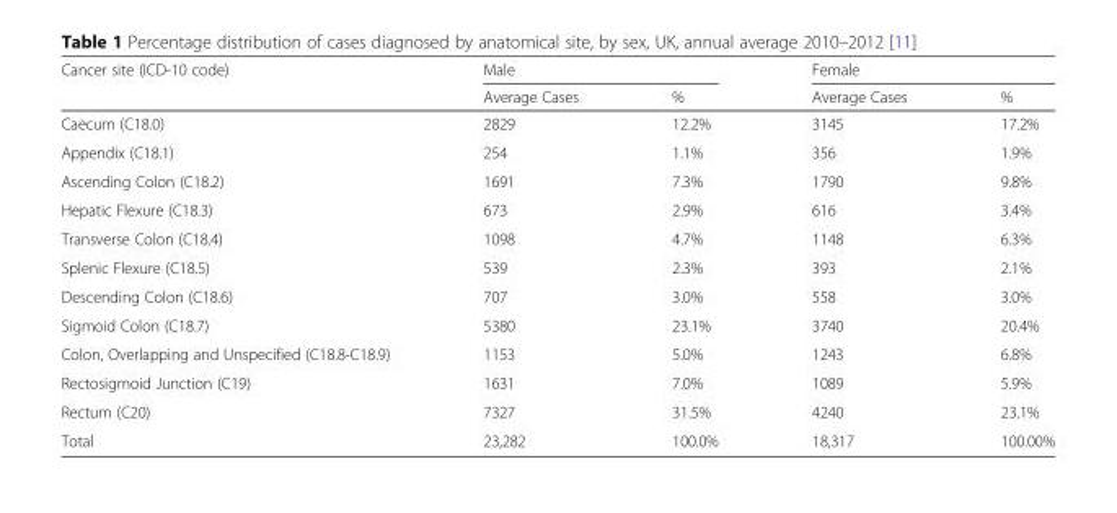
<table><thead><tr><td rowspan="2">Cancer site (ICD-10 code)</td><td colspan="2">Male</td><td colspan="2">Female</td></tr><tr><td>Average Cases</td><td>%</td><td>Average Cases</td><td>%</td></tr></thead><tbody><tr><td>Caecum (C18.0)</td><td>2829</td><td>12.2%</td><td>3145</td><td>17.2%</td></tr><tr><td>Appendix (C18.1)</td><td>254</td><td>1.1%</td><td>356</td><td>1.9%</td></tr><tr><td>Ascending Colon (C18.2)</td><td>1691</td><td>7.3%</td><td>1790</td><td>9.8%</td></tr><tr><td>Hepatic Flexure (C18.3)</td><td>673</td><td>2.9%</td><td>616</td><td>3.4%</td></tr><tr><td>Transverse Colon (C18.4)</td><td>1098</td><td>4.7%</td><td>1148</td><td>6.3%</td></tr><tr><td>Splenic Flexure (C18.5)</td><td>539</td><td>2.3%</td><td>393</td><td>2.1%</td></tr><tr><td>Descending Colon (C18.6)</td><td>707</td><td>3.0%</td><td>558</td><td>3.0%</td></tr><tr><td>Sigmoid Colon (C18.7)</td><td>5380</td><td>23.1%</td><td>3740</td><td>20.4%</td></tr><tr><td>Colon, Overlapping and Unspecified (C18.8-C18.9)</td><td>1153</td><td>5.0%</td><td>1243</td><td>6.8%</td></tr><tr><td>Rectosigmoid Junction (C19)</td><td>1631</td><td>7.0%</td><td>1089</td><td>5.9%</td></tr><tr><td>Rectum (C20)</td><td>7327</td><td>31.5%</td><td>4240</td><td>23.1%</td></tr><tr><td>Total</td><td>23,282</td><td>100.0%</td><td>18,317</td><td>100.00%</td></tr></tbody></table>